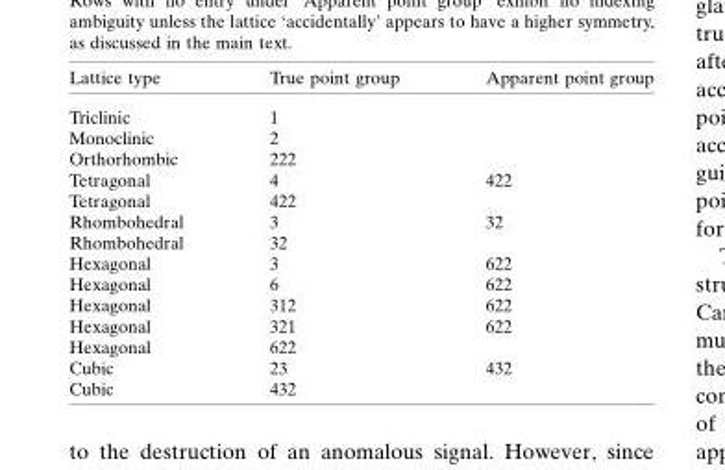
<table><thead><tr><td>Lattice type</td><td>True point group</td><td>Apparent point group</td></tr></thead><tbody><tr><td>Triclinic</td><td>1</td><td></td></tr><tr><td>Monoclinic</td><td>2</td><td></td></tr><tr><td>Orthorhombic</td><td>222</td><td></td></tr><tr><td>Tetragonal</td><td>4</td><td>422</td></tr><tr><td>Tetragonal</td><td>422</td><td></td></tr><tr><td>Rhombohedral</td><td>3</td><td>32</td></tr><tr><td>Rhombohedral</td><td>32</td><td></td></tr><tr><td>Hexagonal</td><td>3</td><td>622</td></tr><tr><td>Hexagonal</td><td>6</td><td>622</td></tr><tr><td>Hexagonal</td><td>312</td><td>622</td></tr><tr><td>Hexagonal</td><td>321</td><td>622</td></tr><tr><td>Hexagonal</td><td>622</td><td></td></tr><tr><td>Cubic</td><td>23</td><td>432</td></tr><tr><td>Cubic</td><td>432</td><td></td></tr></tbody></table>